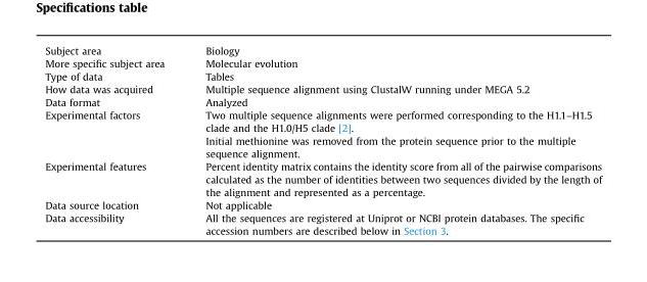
<table><tbody><tr><td>Subject area</td><td>Biology</td></tr><tr><td>More specific subject area</td><td>Molecular evolution</td></tr><tr><td>Type of data</td><td>Tables</td></tr><tr><td>How data was acquired</td><td>Multiple sequence alignment using ClustalW running under MEGA 5.2</td></tr><tr><td>Data format</td><td>Analyzed</td></tr><tr><td rowspan="2">Experimental factors</td><td>Two multiple sequence alignments were performed corresponding to the H1.1–H1.5 clade and the H1.0/H5 clade [2].</td></tr><tr><td>Initial methionine was removed from the protein sequence prior to the multiple sequence alignment.</td></tr><tr><td>Experimental features</td><td>Percent identity matrix contains the identity score from all of the pairwise comparisons calculated as the number of identities between two sequences divided by the length of the alignment and represented as a percentage.</td></tr><tr><td>Data source location</td><td>Not applicable</td></tr><tr><td>Data accessibility</td><td>All the sequences are registered at Uniprot or NCBI protein databases. The specific accession numbers are described below in Section 3.</td></tr></tbody></table>